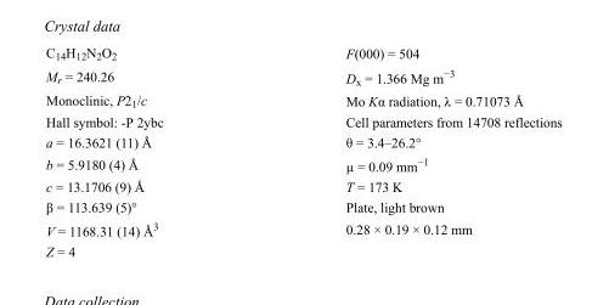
<table><tbody><tr><td>C<sub>14</sub>H<sub>12</sub>N<sub>2</sub>O<sub>2</sub></td><td>F(000) = 504</td></tr><tr><td>M<sub>r</sub> = 240.26</td><td>D<sub>x</sub> = 1.366 Mg m<sup>−3</sup></td></tr><tr><td>Monoclinic, P2<sub>1</sub>/c</td><td>Mo Kα radiation, λ = 0.71073 Å</td></tr><tr><td>Hall symbol: -P 2ybc</td><td>Cell parameters from 14708 reflections</td></tr><tr><td>a = 16.3621 (11) Å</td><td>θ = 3.4–26.2°</td></tr><tr><td>b = 5.9180 (4) Å</td><td>µ = 0.09 mm<sup>−1</sup></td></tr><tr><td>c = 13.1706 (9) Å</td><td>T = 173 K</td></tr><tr><td>β = 113.639 (5)°</td><td>Plate, light brown</td></tr><tr><td>V = 1168.31 (14) Å<sup>3</sup></td><td>0.28 × 0.19 × 0.12 mm</td></tr><tr><td>Z = 4</td><td></td></tr></tbody></table>